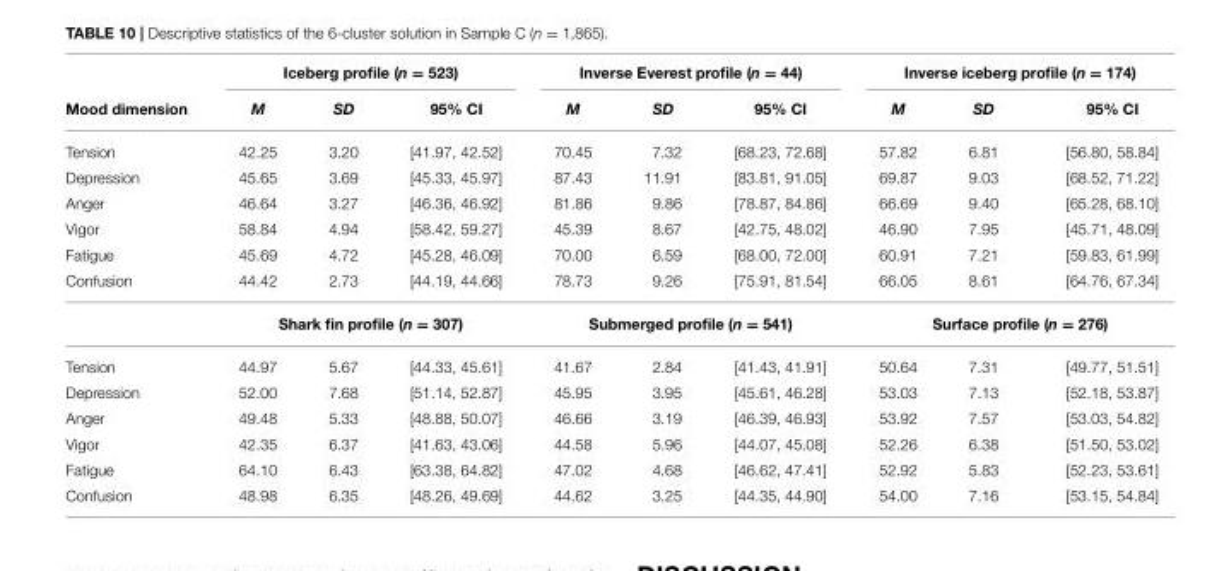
<table><thead><tr><td rowspan="2">Mood dimension</td><td colspan="3">Iceberg profile (n = 523)</td><td colspan="3">Inverse Everest profile (n = 44)</td><td colspan="3">Inverse iceberg profile (n = 174)</td></tr><tr><td>M</td><td>SD</td><td>95% CI</td><td>M</td><td>SD</td><td>95% CI</td><td>M</td><td>SD</td><td>95% CI</td></tr></thead><tbody><tr><td>Tension</td><td>42.25</td><td>3.20</td><td>[41.97, 42.52]</td><td>70.45</td><td>7.32</td><td>[68.23, 72.68]</td><td>57.82</td><td>6.81</td><td>[56.80, 58.84]</td></tr><tr><td>Depression</td><td>45.65</td><td>3.69</td><td>[45.33, 45.97]</td><td>87.43</td><td>11.91</td><td>[83.81, 91.05]</td><td>69.87</td><td>9.03</td><td>[68.52, 71.22]</td></tr><tr><td>Anger</td><td>46.64</td><td>3.27</td><td>[46.36, 46.92]</td><td>81.86</td><td>9.86</td><td>[78.87, 84.86]</td><td>66.69</td><td>9.40</td><td>[65.28, 68.10]</td></tr><tr><td>Vigor</td><td>58.84</td><td>4.94</td><td>[58.42, 59.27]</td><td>45.39</td><td>8.67</td><td>[42.75, 48.02]</td><td>46.90</td><td>7.95</td><td>[45.71, 48.09]</td></tr><tr><td>Fatigue</td><td>45.69</td><td>4.72</td><td>[45.28, 46.09]</td><td>70.00</td><td>6.59</td><td>[68.00, 72.00]</td><td>60.91</td><td>7.21</td><td>[59.83, 61.99]</td></tr><tr><td rowspan="2">Confusion</td><td>44.42</td><td>2.73</td><td>[44.19, 44.66]</td><td>78.73</td><td>9.26</td><td>[75.91, 81.54]</td><td>66.05</td><td>8.61</td><td>[64.76, 67.34]</td></tr><tr><td colspan="3">Shark fin profile (n = 307)</td><td colspan="3">Submerged profile (n = 541)</td><td colspan="3">Surface profile (n = 276)</td></tr><tr><td>Tension</td><td>44.97</td><td>5.67</td><td>[44.33, 45.61]</td><td>41.67</td><td>2.84</td><td>[41.43, 41.91]</td><td>50.64</td><td>7.31</td><td>[49.77, 51.51]</td></tr><tr><td>Depression</td><td>52.00</td><td>7.68</td><td>[51.14, 52.87]</td><td>45.95</td><td>3.95</td><td>[45.61, 46.28]</td><td>53.03</td><td>7.13</td><td>[52.18, 53.87]</td></tr><tr><td>Anger</td><td>49.48</td><td>5.33</td><td>[48.88, 50.07]</td><td>46.66</td><td>3.19</td><td>[46.39, 46.93]</td><td>53.92</td><td>7.57</td><td>[53.03, 54.82]</td></tr><tr><td>Vigor</td><td>42.35</td><td>6.37</td><td>[41.63, 43.06]</td><td>44.58</td><td>5.96</td><td>[44.07, 45.08]</td><td>52.26</td><td>6.38</td><td>[51.50, 53.02]</td></tr><tr><td>Fatigue</td><td>64.10</td><td>6.43</td><td>[63.38, 64.82]</td><td>47.02</td><td>4.68</td><td>[46.62, 47.41]</td><td>52.92</td><td>5.83</td><td>[52.23, 53.61]</td></tr><tr><td>Confusion</td><td>48.98</td><td>6.35</td><td>[48.26, 49.69]</td><td>44.62</td><td>3.25</td><td>[44.35, 44.90]</td><td>54.00</td><td>7.16</td><td>[53.15, 54.84]</td></tr></tbody></table>